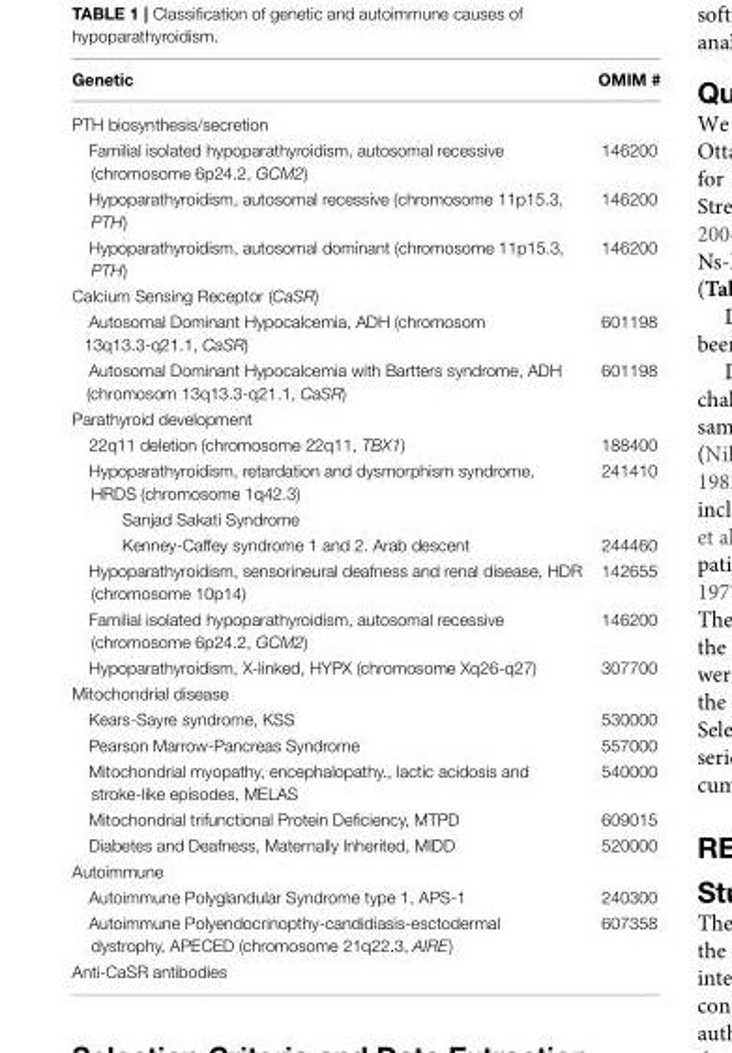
<table><thead><tr><td>Genetic</td><td>OMIM #</td></tr></thead><tbody><tr><td colspan="2">PTH biosynthesis/secretion</td></tr><tr><td>Familial isolated hypoparathyroidism, autosomal recessive (chromosome 6p24.2, GCM2)</td><td>146200</td></tr><tr><td>Hypoparathyroidism, autosomal recessive (chromosome 11p15.3, PTH)</td><td>146200</td></tr><tr><td>Hypoparathyroidism, autosomal dominant (chromosome 11p15.3, PTH)</td><td>146200</td></tr><tr><td colspan="2">Calcium Sensing Receptor (CaSR)</td></tr><tr><td>Autosomal Dominant Hypocalcemia, ADH (chromosom 13q13.3-q21.1, CaSR)</td><td>601198</td></tr><tr><td>Autosomal Dominant Hypocalcemia with Bartters syndrome, ADH (chromosom 13q13.3-q21.1, CaSR)</td><td>601198</td></tr><tr><td colspan="2">Parathyroid development</td></tr><tr><td>22q11 deletion (chromosome 22q11, TBX1)</td><td>188400</td></tr><tr><td>Hypoparathyroidism, retardation and dysmorphism syndrome, HRDS (chromosome 1q42.3)</td><td>241410</td></tr><tr><td colspan="2">Sanjad Sakati Syndrome</td></tr><tr><td>Kenney-Caffey syndrome 1 and 2. Arab descent</td><td>244460</td></tr><tr><td>Hypoparathyroidism, sensorineural deafness and renal disease, HDR (chromosome 10p14)</td><td>142655</td></tr><tr><td>Familial isolated hypoparathyroidism, autosomal recessive (chromosome 6p24.2, GCM2)</td><td>146200</td></tr><tr><td>Hypoparathyroidism, X-linked, HYPX (chromosome Xq26-q27)</td><td>307700</td></tr><tr><td colspan="2">Mitochondrial disease</td></tr><tr><td>Kears-Sayre syndrome, KSS</td><td>530000</td></tr><tr><td>Pearson Marrow-Pancreas Syndrome</td><td>557000</td></tr><tr><td>Mitochondrial myopathy, encephalopathy., lactic acidosis and stroke-like episodes, MELAS</td><td>540000</td></tr><tr><td>Mitochondrial trifunctional Protein Deficiency, MTPD</td><td>609015</td></tr><tr><td>Diabetes and Deafness, Maternally Inherited, MIDD</td><td>520000</td></tr><tr><td colspan="2">Autoimmune</td></tr><tr><td>Autoimmune Polyglandular Syndrome type 1, APS-1</td><td>240300</td></tr><tr><td>Autoimmune Polyendocrinopthy-candidiasis-esctodermal dystrophy, APECED (chromosome 21q22.3, AIRE)</td><td>607358</td></tr><tr><td>Anti-CaSR antibodies</td><td></td></tr></tbody></table>